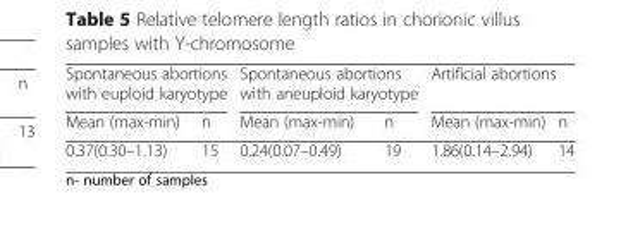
<table><thead><tr><td colspan="2">Spontaneous abortions with euploid karyotype</td><td colspan="2">Spontaneous abortions with aneuploid karyotype</td><td colspan="2">Artificial abortions</td></tr><tr><td>Mean (max-min)</td><td>n</td><td>Mean (max-min)</td><td>n</td><td>Mean (max-min)</td><td>n</td></tr></thead><tbody><tr><td>0.37(0.30–1.13)</td><td>15</td><td>0.24(0.07–0.49)</td><td>19</td><td>1.86(0.14–2.94)</td><td>14</td></tr></tbody></table>